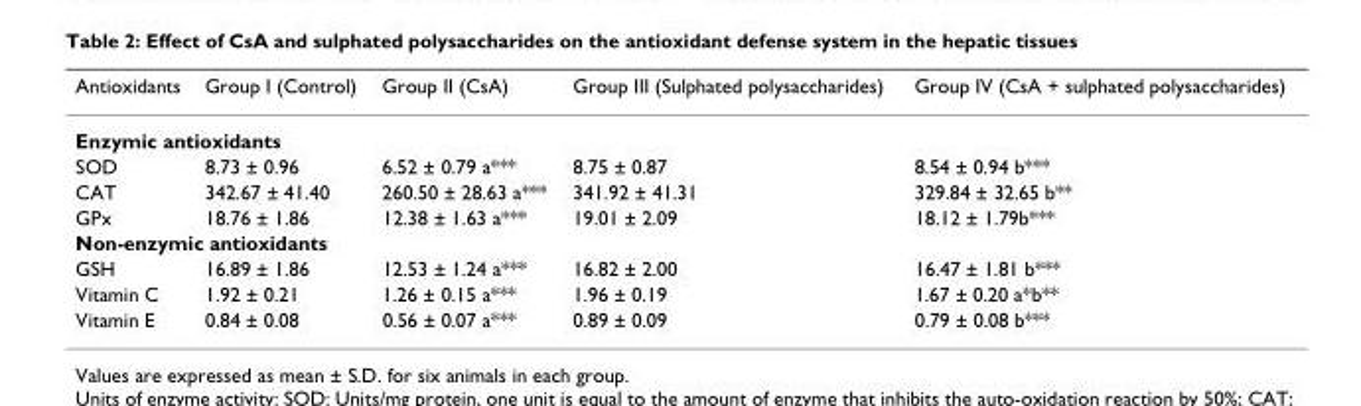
<table><thead><tr><td>Antioxidants</td><td>Group I (Control)</td><td>Group II (CsA)</td><td>Group III (Sulphated polysaccharides)</td><td>Group IV (CsA + sulphated polysaccharides)</td></tr></thead><tbody><tr><td colspan="5">Enzymic antioxidants</td></tr><tr><td>SOD</td><td>8.73 ± 0.96</td><td>6.52 ± 0.79 a***</td><td>8.75 ± 0.87</td><td>8.54 ± 0.94 b***</td></tr><tr><td>CAT</td><td>342.67 ± 41.40</td><td>260.50 ± 28.63 a***</td><td>341.92 ± 41.31</td><td>329.84 ± 32.65 b**</td></tr><tr><td>GPx</td><td>18.76 ± 1.86</td><td>12.38 ± 1.63 a***</td><td>19.01 ± 2.09</td><td>18.12 ± 1.79b***</td></tr><tr><td colspan="5">Non-enzymic antioxidants</td></tr><tr><td>GSH</td><td>16.89 ± 1.86</td><td>12.53 ± 1.24 a***</td><td>16.82 ± 2.00</td><td>16.47 ± 1.81 b***</td></tr><tr><td>Vitamin C</td><td>1.92 ± 0.21</td><td>1.26 ± 0.15 a***</td><td>1.96 ± 0.19</td><td>1.67 ± 0.20 a*b**</td></tr><tr><td>Vitamin E</td><td>0.84 ± 0.08</td><td>0.56 ± 0.07 a***</td><td>0.89 ± 0.09</td><td>0.79 ± 0.08 b***</td></tr></tbody></table>